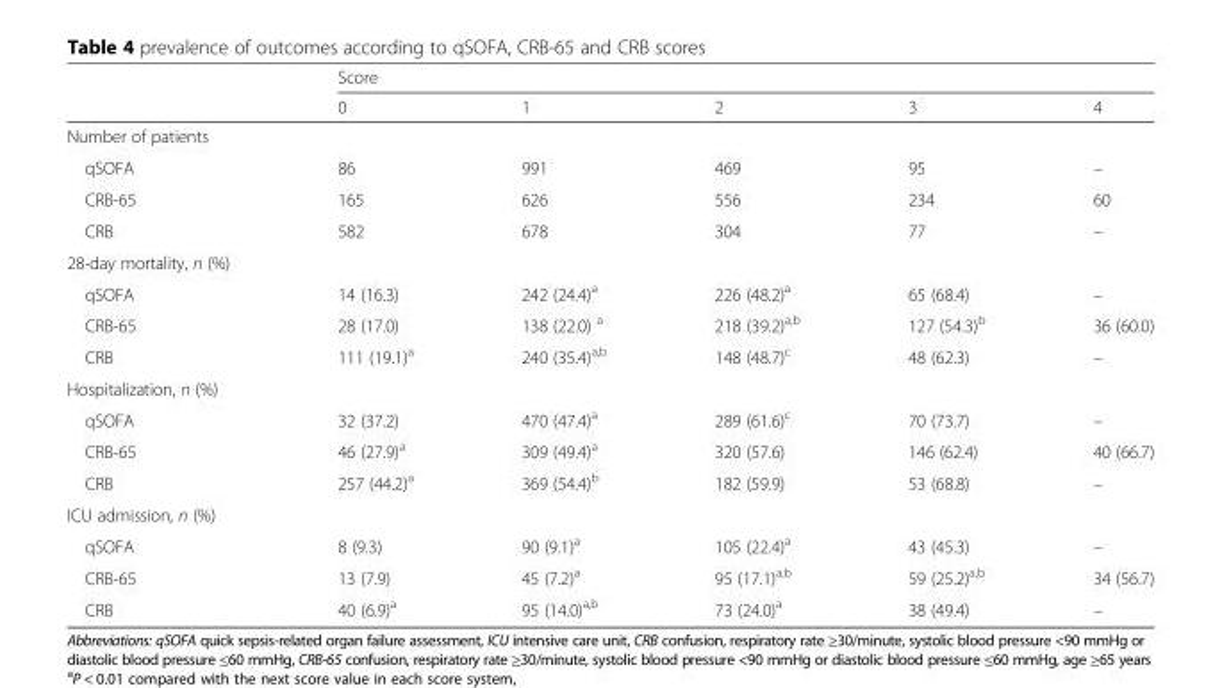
<table><thead><tr><td rowspan="2"></td><td colspan="5">Score</td></tr><tr><td>0</td><td>1</td><td>2</td><td>3</td><td>4</td></tr></thead><tbody><tr><td colspan="6">Number of patients</td></tr><tr><td>qSOFA</td><td>86</td><td>991</td><td>469</td><td>95</td><td>–</td></tr><tr><td>CRB-65</td><td>165</td><td>626</td><td>556</td><td>234</td><td>60</td></tr><tr><td>CRB</td><td>582</td><td>678</td><td>304</td><td>77</td><td>–</td></tr><tr><td colspan="6">28-day mortality, n (%)</td></tr><tr><td>qSOFA</td><td>14 (16.3)</td><td>242 (24.4)<sup>a</sup></td><td>226 (48.2)<sup>a</sup></td><td>65 (68.4)</td><td>–</td></tr><tr><td>CRB-65</td><td>28 (17.0)</td><td>138 (22.0) <sup>a</sup></td><td>218 (39.2)<sup>a,b</sup></td><td>127 (54.3)<sup>b</sup></td><td>36 (60.0)</td></tr><tr><td>CRB</td><td>111 (19.1)<sup>a</sup></td><td>240 (35.4)<sup>a,b</sup></td><td>148 (48.7)<sup>c</sup></td><td>48 (62.3)</td><td>–</td></tr><tr><td colspan="6">Hospitalization, n (%)</td></tr><tr><td>qSOFA</td><td>32 (37.2)</td><td>470 (47.4)<sup>a</sup></td><td>289 (61.6)<sup>c</sup></td><td>70 (73.7)</td><td>–</td></tr><tr><td>CRB-65</td><td>46 (27.9)<sup>a</sup></td><td>309 (49.4)<sup>a</sup></td><td>320 (57.6)</td><td>146 (62.4)</td><td>40 (66.7)</td></tr><tr><td>CRB</td><td>257 (44.2)<sup>a</sup></td><td>369 (54.4)<sup>b</sup></td><td>182 (59.9)</td><td>53 (68.8)</td><td>–</td></tr><tr><td colspan="6">ICU admission, n (%)</td></tr><tr><td>qSOFA</td><td>8 (9.3)</td><td>90 (9.1)<sup>a</sup></td><td>105 (22.4)<sup>a</sup></td><td>43 (45.3)</td><td>–</td></tr><tr><td>CRB-65</td><td>13 (7.9)</td><td>45 (7.2)<sup>a</sup></td><td>95 (17.1)<sup>a,b</sup></td><td>59 (25.2)<sup>a,b</sup></td><td>34 (56.7)</td></tr><tr><td>CRB</td><td>40 (6.9)<sup>a</sup></td><td>95 (14.0)<sup>a,b</sup></td><td>73 (24.0)<sup>a</sup></td><td>38 (49.4)</td><td>–</td></tr></tbody></table>